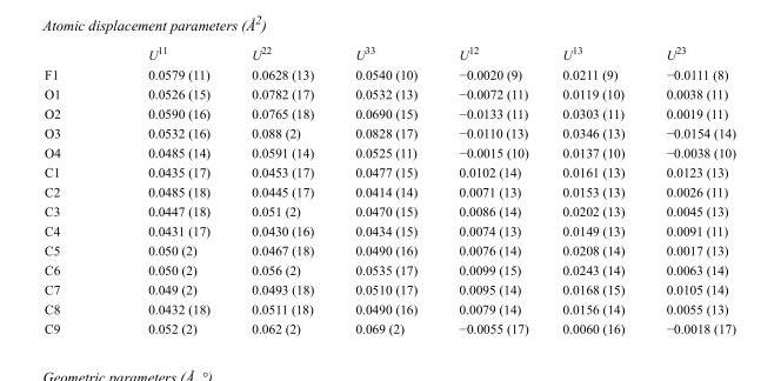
<table><thead><tr><td></td><td>U<sup>11</sup></td><td>U<sup>22</sup></td><td>U<sup>33</sup></td><td>U<sup>12</sup></td><td>U<sup>13</sup></td><td>U<sup>23</sup></td></tr></thead><tbody><tr><td>F1</td><td>0.0579 (11)</td><td>0.0628 (13)</td><td>0.0540 (10)</td><td>−0.0020 (9)</td><td>0.0211 (9)</td><td>−0.0111 (8)</td></tr><tr><td>O1</td><td>0.0526 (15)</td><td>0.0782 (17)</td><td>0.0532 (13)</td><td>−0.0072 (11)</td><td>0.0119 (10)</td><td>0.0038 (11)</td></tr><tr><td>O2</td><td>0.0590 (16)</td><td>0.0765 (18)</td><td>0.0690 (15)</td><td>−0.0133 (11)</td><td>0.0303 (11)</td><td>0.0019 (11)</td></tr><tr><td>O3</td><td>0.0532 (16)</td><td>0.088 (2)</td><td>0.0828 (17)</td><td>−0.0110 (13)</td><td>0.0346 (13)</td><td>−0.0154 (14)</td></tr><tr><td>O4</td><td>0.0485 (14)</td><td>0.0591 (14)</td><td>0.0525 (11)</td><td>−0.0015 (10)</td><td>0.0137 (10)</td><td>−0.0038 (10)</td></tr><tr><td>C1</td><td>0.0435 (17)</td><td>0.0453 (17)</td><td>0.0477 (15)</td><td>0.0102 (14)</td><td>0.0161 (13)</td><td>0.0123 (13)</td></tr><tr><td>C2</td><td>0.0485 (18)</td><td>0.0445 (17)</td><td>0.0414 (14)</td><td>0.0071 (13)</td><td>0.0153 (13)</td><td>0.0026 (11)</td></tr><tr><td>C3</td><td>0.0447 (18)</td><td>0.051 (2)</td><td>0.0470 (15)</td><td>0.0086 (14)</td><td>0.0202 (13)</td><td>0.0045 (13)</td></tr><tr><td>C4</td><td>0.0431 (17)</td><td>0.0430 (16)</td><td>0.0434 (15)</td><td>0.0074 (13)</td><td>0.0149 (13)</td><td>0.0091 (11)</td></tr><tr><td>C5</td><td>0.050 (2)</td><td>0.0467 (18)</td><td>0.0490 (16)</td><td>0.0076 (14)</td><td>0.0208 (14)</td><td>0.0017 (13)</td></tr><tr><td>C6</td><td>0.050 (2)</td><td>0.056 (2)</td><td>0.0535 (17)</td><td>0.0099 (15)</td><td>0.0243 (14)</td><td>0.0063 (14)</td></tr><tr><td>C7</td><td>0.049 (2)</td><td>0.0493 (18)</td><td>0.0510 (17)</td><td>0.0095 (14)</td><td>0.0168 (15)</td><td>0.0105 (14)</td></tr><tr><td>C8</td><td>0.0432 (18)</td><td>0.0511 (18)</td><td>0.0490 (16)</td><td>0.0079 (14)</td><td>0.0156 (14)</td><td>0.0055 (13)</td></tr><tr><td>C9</td><td>0.052 (2)</td><td>0.062 (2)</td><td>0.069 (2)</td><td>−0.0055 (17)</td><td>0.0060 (16)</td><td>−0.0018 (17)</td></tr></tbody></table>